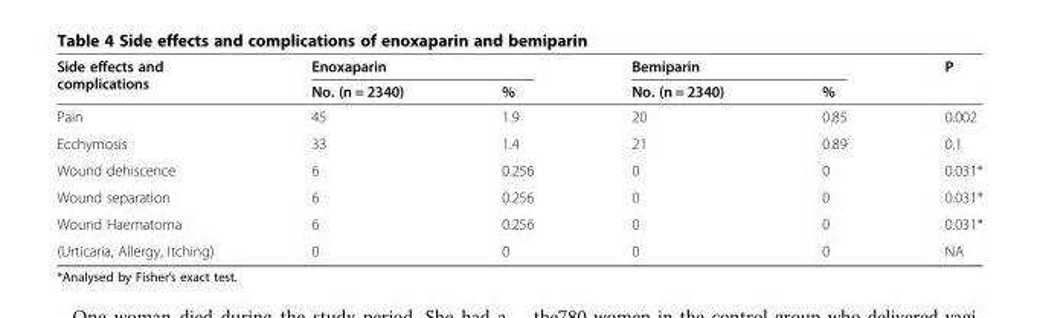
<table><thead><tr><td rowspan="2">Side effects and complications</td><td colspan="2">Enoxaparin</td><td colspan="2">Bemiparin</td><td rowspan="2">P</td></tr><tr><td>No. (n = 2340)</td><td>%</td><td>No. (n = 2340)</td><td>%</td></tr></thead><tbody><tr><td>Pain</td><td>45</td><td>1.9</td><td>20</td><td>0.85</td><td>0.002</td></tr><tr><td>Ecchymosis</td><td>33</td><td>1.4</td><td>21</td><td>0.89</td><td>0.1</td></tr><tr><td>Wound dehiscence</td><td>6</td><td>0.256</td><td>0</td><td>0</td><td>0.031*</td></tr><tr><td>Wound separation</td><td>6</td><td>0.256</td><td>0</td><td>0</td><td>0.031*</td></tr><tr><td>Wound Haematoma</td><td>6</td><td>0.256</td><td>0</td><td>0</td><td>0.031*</td></tr><tr><td>(Urticaria, Allergy, Itching)</td><td>0</td><td>0</td><td>0</td><td>0</td><td>NA</td></tr></tbody></table>